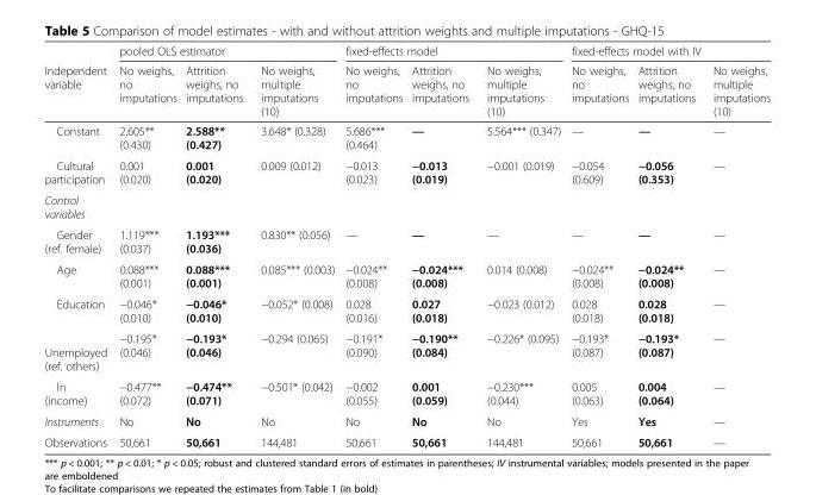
<table><thead><tr><td rowspan="2">Independent variable</td><td colspan="3">pooled OLS estimator</td><td colspan="3">fixed-effects model</td><td colspan="3">fixed-effects model with IV</td></tr><tr><td>No weighs, no imputations</td><td>Attrition weighs, no imputations</td><td>No weighs, multiple imputations (10)</td><td>No weighs, no imputations</td><td>Attrition weighs, no imputations</td><td>No weighs, multiple imputations (10)</td><td>No weighs, no imputations</td><td>Attrition weighs, no imputations</td><td>No weighs, multiple imputations (10)</td></tr></thead><tbody><tr><td>Constant</td><td>2.605** (0.430)</td><td>2.588** (0.427)</td><td>3.648* (0.328)</td><td>5.686*** (0.464)</td><td>—</td><td>5.564*** (0.347)</td><td>—</td><td>—</td><td>—</td></tr><tr><td>Cultural participation</td><td>0.001 (0.020)</td><td>0.001 (0.020)</td><td>0.009 (0.012)</td><td>−0.013 (0.023)</td><td>−0.013 (0.019)</td><td>−0.001 (0.019)</td><td>−0.054 (0.609)</td><td>−0.056 (0.353)</td><td>—</td></tr><tr><td colspan="10">Control variables</td></tr><tr><td>Gender (ref. female)</td><td>1.119*** (0.037)</td><td>1.193*** (0.036)</td><td>0.830** (0.056)</td><td>—</td><td>—</td><td>—</td><td>—</td><td>—</td><td>—</td></tr><tr><td>Age</td><td>0.088*** (0.001)</td><td>0.088*** (0.001)</td><td>0.085*** (0.003)</td><td>−0.024** (0.008)</td><td>−0.024*** (0.008)</td><td>0.014 (0.008)</td><td>−0.024** (0.008)</td><td>−0.024** (0.008)</td><td>—</td></tr><tr><td>Education</td><td>−0.046* (0.010)</td><td>−0.046* (0.010)</td><td>−0.052* (0.008)</td><td>0.028 (0.016)</td><td>0.027 (0.018)</td><td>−0.023 (0.012)</td><td>0.028 (0.018)</td><td>0.028 (0.018)</td><td>—</td></tr><tr><td>Unemployed (ref. others)</td><td>−0.195* (0.046)</td><td>−0.193* (0.046)</td><td>−0.294 (0.065)</td><td>−0.191* (0.090)</td><td>−0.190** (0.084)</td><td>−0.226* (0.095)</td><td>−0.193* (0.087)</td><td>−0.193* (0.087)</td><td>—</td></tr><tr><td>ln (income)</td><td>−0.477** (0.072)</td><td>−0.474** (0.071)</td><td>−0.501* (0.042)</td><td>−0.002 (0.055)</td><td>0.001 (0.059)</td><td>−0.230*** (0.044)</td><td>0.005 (0.063)</td><td>0.004 (0.064)</td><td>—</td></tr><tr><td>Instruments</td><td>No</td><td>No</td><td>No</td><td>No</td><td>No</td><td>No</td><td>Yes</td><td>Yes</td><td>—</td></tr><tr><td>Observations</td><td>50,661</td><td>50,661</td><td>144,481</td><td>50,661</td><td>50,661</td><td>144,481</td><td>50,661</td><td>50,661</td><td>—</td></tr></tbody></table>